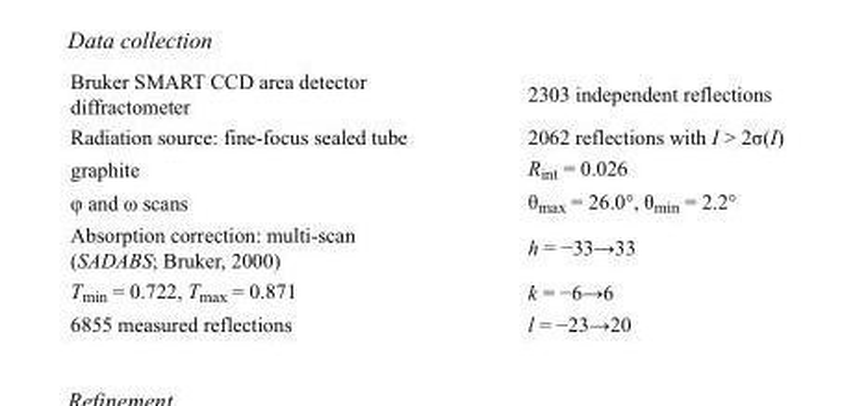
<table><tbody><tr><td>Bruker SMART CCD area detector diffractometer</td><td>2303 independent reflections</td></tr><tr><td>Radiation source: fine-focus sealed tube</td><td>2062 reflections with I &gt; 2σ(I)</td></tr><tr><td>graphite</td><td>R<sub>int</sub> = 0.026</td></tr><tr><td>φ and ω scans</td><td>θ<sub>max</sub> = 26.0°, θ<sub>min</sub> = 2.2°</td></tr><tr><td>Absorption correction: multi-scan (SADABS; Bruker, 2000)</td><td>h = −33→33</td></tr><tr><td>T<sub>min</sub> = 0.722, T<sub>max</sub> = 0.871</td><td>k = −6→6</td></tr><tr><td>6855 measured reflections</td><td>l = −23→20</td></tr></tbody></table>